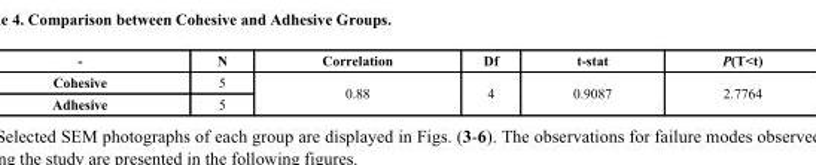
<table><thead><tr><td>-</td><td>N</td><td>Correlation</td><td>Df</td><td>t-stat</td><td>P(T&lt;t)</td></tr></thead><tbody><tr><td>Cohesive</td><td>5</td><td rowspan="2">0.88</td><td rowspan="2">4</td><td rowspan="2">0.9087</td><td rowspan="2">2.7764</td></tr><tr><td>Adhesive</td><td>5</td></tr></tbody></table>